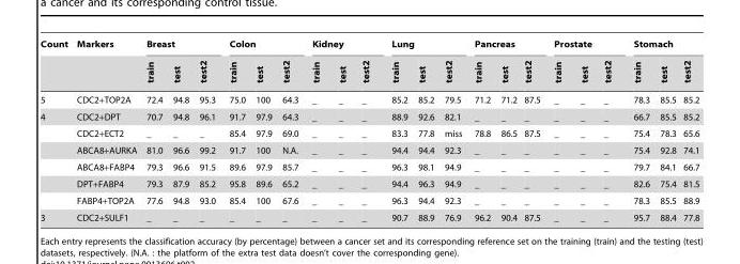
<table><thead><tr><td rowspan="2">Count</td><td rowspan="2">Markers</td><td colspan="3">Breast</td><td colspan="3">Colon</td><td colspan="3">Kidney</td><td colspan="3">Lung</td><td colspan="3">Pancreas</td><td colspan="3">Prostate</td><td colspan="3">Stomach</td></tr><tr><td>train</td><td>test</td><td>test2</td><td>train</td><td>test</td><td>test2</td><td>train</td><td>test</td><td>test2</td><td>train</td><td>test</td><td>test2</td><td>train</td><td>test</td><td>test2</td><td>train</td><td>test</td><td>test2</td><td>train</td><td>test</td><td>test2</td></tr></thead><tbody><tr><td>5</td><td>CDC2+TOP2A</td><td>72.4</td><td>94.8</td><td>95.3</td><td>75.0</td><td>100</td><td>64.3</td><td>_</td><td>_</td><td>_</td><td>85.2</td><td>85.2</td><td>79.5</td><td>71.2</td><td>71.2</td><td>87.5</td><td>_</td><td>_</td><td>_</td><td>78.3</td><td>85.5</td><td>85.2</td></tr><tr><td rowspan="6">4</td><td>CDC2+DPT</td><td>70.7</td><td>94.8</td><td>96.1</td><td>91.7</td><td>97.9</td><td>64.3</td><td>_</td><td>_</td><td>_</td><td>88.9</td><td>92.6</td><td>82.1</td><td>_</td><td>_</td><td>_</td><td>_</td><td>_</td><td>_</td><td>66.7</td><td>85.5</td><td>85.2</td></tr><tr><td>CDC2+ECT2</td><td>_</td><td>_</td><td>_</td><td>85.4</td><td>97.9</td><td>69.0</td><td>_</td><td>_</td><td>_</td><td>83.3</td><td>77.8</td><td>miss</td><td>78.8</td><td>86.5</td><td>87.5</td><td>_</td><td>_</td><td>_</td><td>75.4</td><td>78.3</td><td>65.6</td></tr><tr><td>ABCA8+AURKA</td><td>81.0</td><td>96.6</td><td>99.2</td><td>91.7</td><td>100</td><td>N.A.</td><td>_</td><td>_</td><td>_</td><td>94.4</td><td>94.4</td><td>92.3</td><td>_</td><td>_</td><td>_</td><td>_</td><td>_</td><td>_</td><td>75.4</td><td>92.8</td><td>74.1</td></tr><tr><td>ABCA8+FABP4</td><td>79.3</td><td>96.6</td><td>91.5</td><td>89.6</td><td>97.9</td><td>85.7</td><td>_</td><td>_</td><td>_</td><td>96.3</td><td>98.1</td><td>94.9</td><td>_</td><td>_</td><td>_</td><td>_</td><td>_</td><td>_</td><td>79.7</td><td>84.1</td><td>66.7</td></tr><tr><td>DPT+FABP4</td><td>79.3</td><td>87.9</td><td>85.2</td><td>95.8</td><td>89.6</td><td>65.2</td><td>_</td><td>_</td><td>_</td><td>94.4</td><td>96.3</td><td>94.9</td><td>_</td><td>_</td><td>_</td><td>_</td><td>_</td><td>_</td><td>82.6</td><td>75.4</td><td>81.5</td></tr><tr><td>FABP4+TOP2A</td><td>77.6</td><td>94.8</td><td>93.0</td><td>85.4</td><td>100</td><td>67.6</td><td>_</td><td>_</td><td>_</td><td>96.3</td><td>94.4</td><td>92.3</td><td>_</td><td>_</td><td>_</td><td>_</td><td>_</td><td>_</td><td>78.3</td><td>85.5</td><td>88.9</td></tr><tr><td>3</td><td>CDC2+SULF1</td><td>_</td><td>_</td><td>_</td><td>_</td><td>_</td><td>_</td><td>_</td><td>_</td><td>_</td><td>90.7</td><td>88.9</td><td>76.9</td><td>96.2</td><td>90.4</td><td>87.5</td><td>_</td><td>_</td><td>_</td><td>95.7</td><td>88.4</td><td>77.8</td></tr></tbody></table>